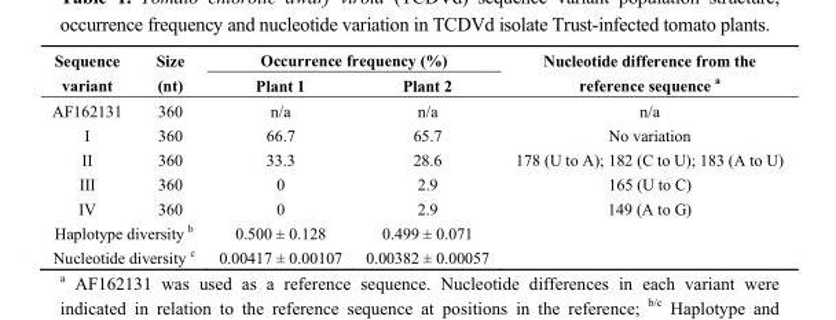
<table><thead><tr><td rowspan="2">Sequence variant</td><td rowspan="2">Size (nt)</td><td colspan="2">Occurrence frequency (%)</td><td rowspan="2">Nucleotide difference from the reference sequence <sup>a</sup></td></tr><tr><td>Plant 1</td><td>Plant 2</td></tr></thead><tbody><tr><td>AF162131</td><td>360</td><td>n/a</td><td>n/a</td><td>n/a</td></tr><tr><td>I</td><td>360</td><td>66.7</td><td>65.7</td><td>No variation</td></tr><tr><td>II</td><td>360</td><td>33.3</td><td>28.6</td><td>178 (U to A); 182 (C to U); 183 (A to U)</td></tr><tr><td>III</td><td>360</td><td>0</td><td>2.9</td><td>165 (U to C)</td></tr><tr><td>IV</td><td>360</td><td>0</td><td>2.9</td><td>149 (A to G)</td></tr><tr><td colspan="2">Haplotype diversity <sup>b</sup></td><td>0.500 ± 0.128</td><td>0.499 ± 0.071</td><td></td></tr><tr><td colspan="2">Nucleotide diversity <sup>c</sup></td><td>0.00417 ± 0.00107</td><td>0.00382 ± 0.00057</td><td></td></tr></tbody></table>